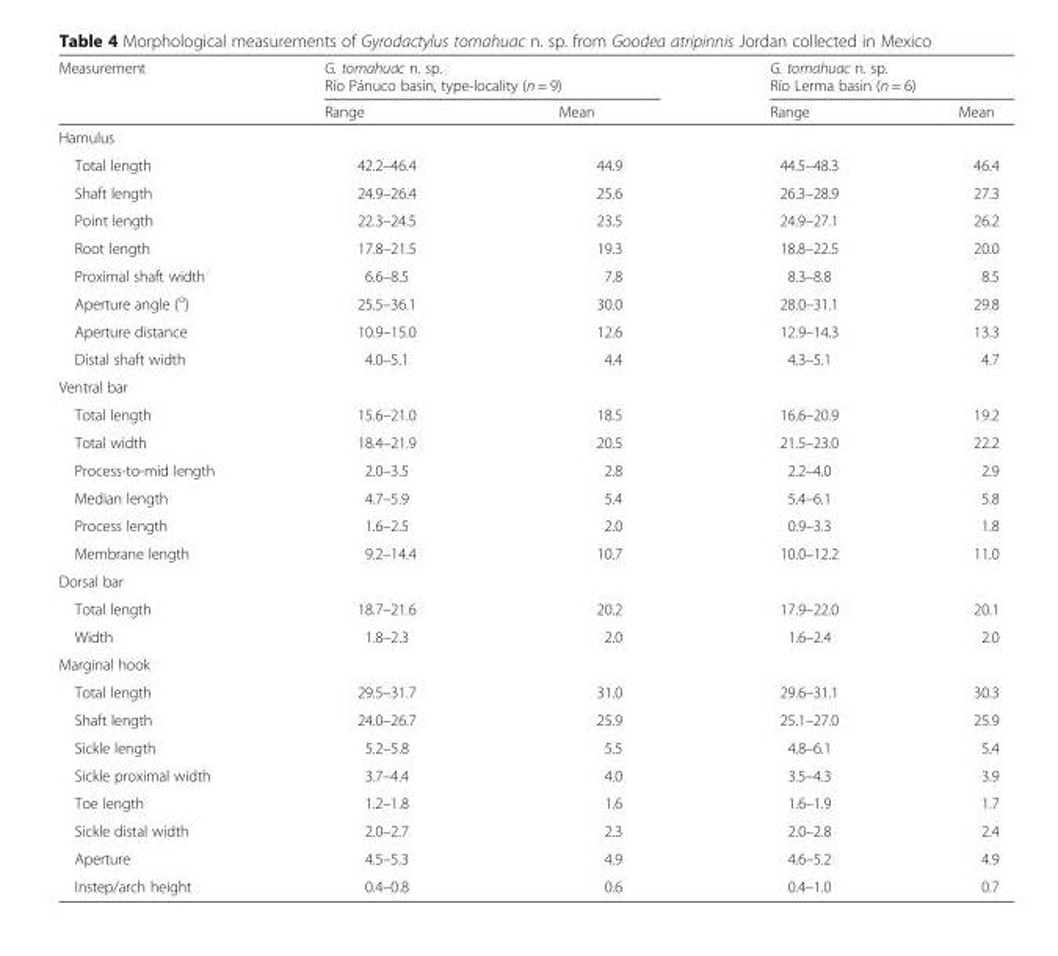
<table><thead><tr><td rowspan="2">Measurement</td><td colspan="2">G. tomahuac n. sp. Río Pánuco basin, type-locality (n = 9)</td><td colspan="2">G. tomahuac n. sp. Río Lerma basin (n = 6)</td></tr><tr><td>Range</td><td>Mean</td><td>Range</td><td>Mean</td></tr></thead><tbody><tr><td colspan="5">Hamulus</td></tr><tr><td>Total length</td><td>42.2–46.4</td><td>44.9</td><td>44.5–48.3</td><td>46.4</td></tr><tr><td>Shaft length</td><td>24.9–26.4</td><td>25.6</td><td>26.3–28.9</td><td>27.3</td></tr><tr><td>Point length</td><td>22.3–24.5</td><td>23.5</td><td>24.9–27.1</td><td>26.2</td></tr><tr><td>Root length</td><td>17.8–21.5</td><td>19.3</td><td>18.8–22.5</td><td>20.0</td></tr><tr><td>Proximal shaft width</td><td>6.6–8.5</td><td>7.8</td><td>8.3–8.8</td><td>8.5</td></tr><tr><td>Aperture angle (<sup>o</sup>)</td><td>25.5–36.1</td><td>30.0</td><td>28.0–31.1</td><td>29.8</td></tr><tr><td>Aperture distance</td><td>10.9–15.0</td><td>12.6</td><td>12.9–14.3</td><td>13.3</td></tr><tr><td>Distal shaft width</td><td>4.0–5.1</td><td>4.4</td><td>4.3–5.1</td><td>4.7</td></tr><tr><td colspan="5">Ventral bar</td></tr><tr><td>Total length</td><td>15.6–21.0</td><td>18.5</td><td>16.6–20.9</td><td>19.2</td></tr><tr><td>Total width</td><td>18.4–21.9</td><td>20.5</td><td>21.5–23.0</td><td>22.2</td></tr><tr><td>Process-to-mid length</td><td>2.0–3.5</td><td>2.8</td><td>2.2–4.0</td><td>2.9</td></tr><tr><td>Median length</td><td>4.7–5.9</td><td>5.4</td><td>5.4–6.1</td><td>5.8</td></tr><tr><td>Process length</td><td>1.6–2.5</td><td>2.0</td><td>0.9–3.3</td><td>1.8</td></tr><tr><td>Membrane length</td><td>9.2–14.4</td><td>10.7</td><td>10.0–12.2</td><td>11.0</td></tr><tr><td colspan="5">Dorsal bar</td></tr><tr><td>Total length</td><td>18.7–21.6</td><td>20.2</td><td>17.9–22.0</td><td>20.1</td></tr><tr><td>Width</td><td>1.8–2.3</td><td>2.0</td><td>1.6–2.4</td><td>2.0</td></tr><tr><td colspan="5">Marginal hook</td></tr><tr><td>Total length</td><td>29.5–31.7</td><td>31.0</td><td>29.6–31.1</td><td>30.3</td></tr><tr><td>Shaft length</td><td>24.0–26.7</td><td>25.9</td><td>25.1–27.0</td><td>25.9</td></tr><tr><td>Sickle length</td><td>5.2–5.8</td><td>5.5</td><td>4.8–6.1</td><td>5.4</td></tr><tr><td>Sickle proximal width</td><td>3.7–4.4</td><td>4.0</td><td>3.5–4.3</td><td>3.9</td></tr><tr><td>Toe length</td><td>1.2–1.8</td><td>1.6</td><td>1.6–1.9</td><td>1.7</td></tr><tr><td>Sickle distal width</td><td>2.0–2.7</td><td>2.3</td><td>2.0–2.8</td><td>2.4</td></tr><tr><td>Aperture</td><td>4.5–5.3</td><td>4.9</td><td>4.6–5.2</td><td>4.9</td></tr><tr><td>Instep/arch height</td><td>0.4–0.8</td><td>0.6</td><td>0.4–1.0</td><td>0.7</td></tr></tbody></table>